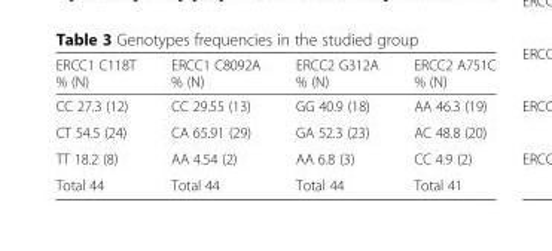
<table><thead><tr><td>ERCC1 C118T % (N)</td><td>ERCC1 C8092A % (N)</td><td>ERCC2 G312A % (N)</td><td>ERCC2 A751C % (N)</td></tr></thead><tbody><tr><td>CC 27.3 (12)</td><td>CC 29.55 (13)</td><td>GG 40.9 (18)</td><td>AA 46.3 (19)</td></tr><tr><td>CT 54.5 (24)</td><td>CA 65.91 (29)</td><td>GA 52.3 (23)</td><td>AC 48.8 (20)</td></tr><tr><td>TT 18.2 (8)</td><td>AA 4.54 (2)</td><td>AA 6.8 (3)</td><td>CC 4.9 (2)</td></tr><tr><td>Total 44</td><td>Total 44</td><td>Total 44</td><td>Total 41</td></tr></tbody></table>